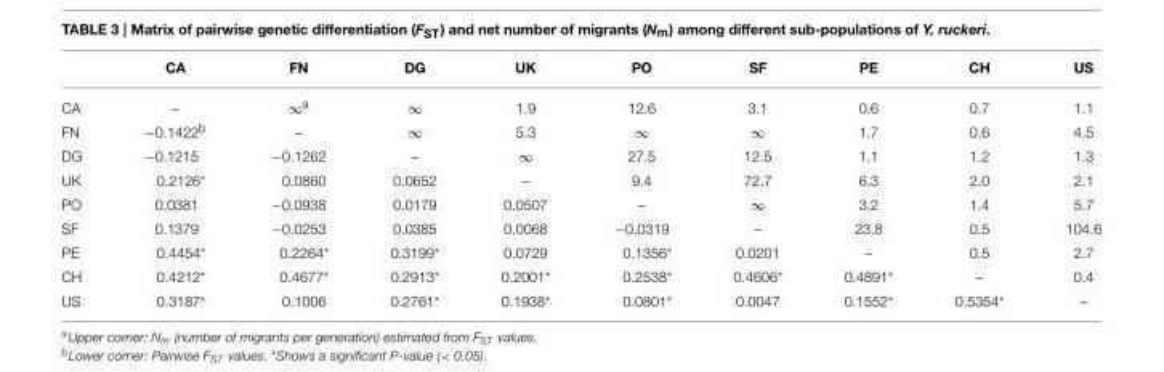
<table><thead><tr><td></td><td>CA</td><td>FN</td><td>DG</td><td>UK</td><td>PO</td><td>SF</td><td>PE</td><td>CH</td><td>US</td></tr></thead><tbody><tr><td>CA</td><td>–</td><td>∞<sup>a</sup></td><td>∞</td><td>1.9</td><td>12.6</td><td>3.1</td><td>0.6</td><td>0.7</td><td>1.1</td></tr><tr><td>FN</td><td>−0.1422<sup>b</sup></td><td>–</td><td>∞</td><td>5.3</td><td>∞</td><td>∞</td><td>1.7</td><td>0.6</td><td>4.5</td></tr><tr><td>DG</td><td>−0.1215</td><td>−0.1262</td><td>–</td><td>∞</td><td>27.5</td><td>12.5</td><td>1.1</td><td>1.2</td><td>1.3</td></tr><tr><td>UK</td><td>0.2126*</td><td>0.0860</td><td>0.0652</td><td>–</td><td>9.4</td><td>72.7</td><td>6.3</td><td>2.0</td><td>2.1</td></tr><tr><td>PO</td><td>0.0381</td><td>−0.0938</td><td>0.0179</td><td>0.0507</td><td>–</td><td>∞</td><td>3.2</td><td>1.4</td><td>5.7</td></tr><tr><td>SF</td><td>0.1379</td><td>−0.0253</td><td>0.0385</td><td>0.0068</td><td>−0.0319</td><td>–</td><td>23.8</td><td>0.5</td><td>104.6</td></tr><tr><td>PE</td><td>0.4454*</td><td>0.2264*</td><td>0.3199*</td><td>0.0729</td><td>0.1356*</td><td>0.0201</td><td>–</td><td>0.5</td><td>2.7</td></tr><tr><td>CH</td><td>0.4212*</td><td>0.4677*</td><td>0.2913*</td><td>0.2001*</td><td>0.2538*</td><td>0.4606*</td><td>0.4891*</td><td>–</td><td>0.4</td></tr><tr><td>US</td><td>0.3187*</td><td>0.1006</td><td>0.2761*</td><td>0.1938*</td><td>0.0801*</td><td>0.0047</td><td>0.1552*</td><td>0.5354*</td><td>–</td></tr></tbody></table>